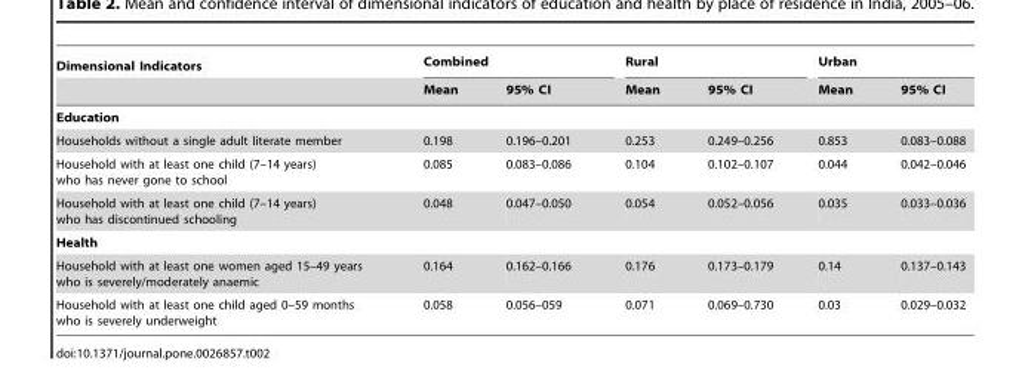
<table><thead><tr><td rowspan="2">Dimensional Indicators</td><td colspan="2">Combined</td><td colspan="2">Rural</td><td colspan="2">Urban</td></tr><tr><td>Mean</td><td>95% CI</td><td>Mean</td><td>95% CI</td><td>Mean</td><td>95% CI</td></tr></thead><tbody><tr><td colspan="7">Education</td></tr><tr><td>Households without a single adult literate member</td><td>0.198</td><td>0.196–0.201</td><td>0.253</td><td>0.249–0.256</td><td>0.853</td><td>0.083–0.088</td></tr><tr><td>Household with at least one child (7–14 years) who has never gone to school</td><td>0.085</td><td>0.083–0.086</td><td>0.104</td><td>0.102–0.107</td><td>0.044</td><td>0.042–0.046</td></tr><tr><td>Household with at least one child (7–14 years) who has discontinued schooling</td><td>0.048</td><td>0.047–0.050</td><td>0.054</td><td>0.052–0.056</td><td>0.035</td><td>0.033–0.036</td></tr><tr><td colspan="7">Health</td></tr><tr><td>Household with at least one women aged 15–49 years who is severely/moderately anaemic</td><td>0.164</td><td>0.162–0.166</td><td>0.176</td><td>0.173–0.179</td><td>0.14</td><td>0.137–0.143</td></tr><tr><td>Household with at least one child aged 0–59 months who is severely underweight</td><td>0.058</td><td>0.056–059</td><td>0.071</td><td>0.069–0.730</td><td>0.03</td><td>0.029–0.032</td></tr></tbody></table>